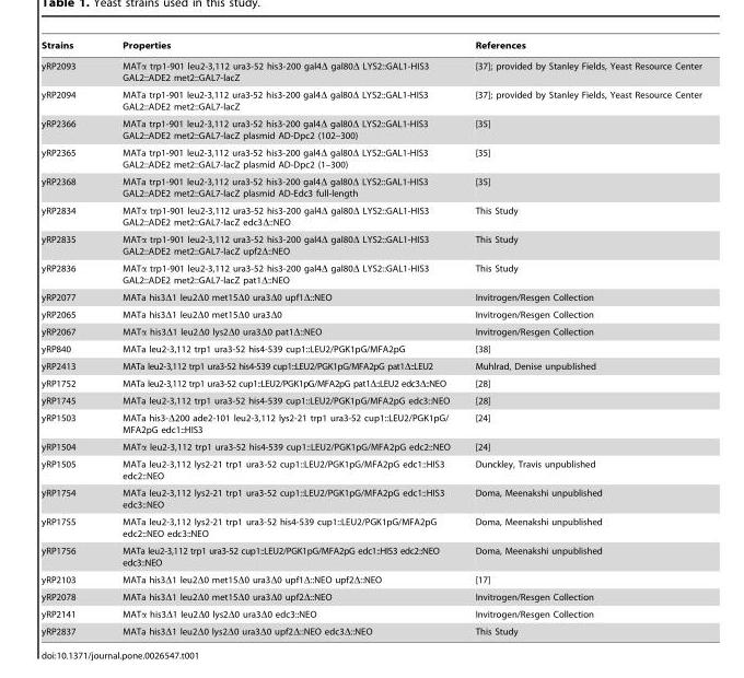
<table><thead><tr><td>Strains</td><td>Properties</td><td>References</td></tr></thead><tbody><tr><td>yRP2093</td><td>MATα trp1-901 leu2-3,112 ura3-52 his3-200 gal4Δ gal80Δ LYS2::GAL1-HIS3 GAL2::ADE2 met2::GAL7-lacZ</td><td>[37]; provided by Stanley Fields, Yeast Resource Center</td></tr><tr><td>yRP2094</td><td>MATa trp1-901 leu2-3,112 ura3-52 his3-200 gal4Δ gal80Δ LYS2::GAL1-HIS3 GAL2::ADE2 met2::GAL7-lacZ</td><td>[37]; provided by Stanley Fields, Yeast Resource Center</td></tr><tr><td>yRP2366</td><td>MATa trp1-901 leu2-3,112 ura3-52 his3-200 gal4Δ gal80Δ LYS2::GAL1-HIS3 GAL2::ADE2 met2::GAL7-lacZ plasmid AD-Dpc2 (102–300)</td><td>[35]</td></tr><tr><td>yRP2365</td><td>MATa trp1-901 leu2-3,112 ura3-52 his3-200 gal4Δ gal80Δ LYS2::GAL1-HIS3 GAL2::ADE2 met2::GAL7-lacZ plasmid AD-Dpc2 (1–300)</td><td>[35]</td></tr><tr><td>yRP2368</td><td>MATa trp1-901 leu2-3,112 ura3-52 his3-200 gal4Δ gal80Δ LYS2::GAL1-HIS3 GAL2::ADE2 met2::GAL7-lacZ plasmid AD-Edc3 full-length</td><td>[35]</td></tr><tr><td>yRP2834</td><td>MATα trp1-901 leu2-3,112 ura3-52 his3-200 gal4Δ gal80Δ LYS2::GAL1-HIS3 GAL2::ADE2 met2::GAL7-lacZ edc3Δ::NEO</td><td>This Study</td></tr><tr><td>yRP2835</td><td>MATα trp1-901 leu2-3,112 ura3-52 his3-200 gal4Δ gal80Δ LYS2::GAL1-HIS3 GAL2::ADE2 met2::GAL7-lacZ upf2Δ::NEO</td><td>This Study</td></tr><tr><td>yRP2836</td><td>MATα trp1-901 leu2-3,112 ura3-52 his3-200 gal4Δ gal80Δ LYS2::GAL1-HIS3 GAL2::ADE2 met2::GAL7-lacZ pat1Δ::NEO</td><td>This Study</td></tr><tr><td>yRP2077</td><td>MATa his3Δ1 leu2Δ0 met15Δ0 ura3Δ0 upf1Δ::NEO</td><td>Invitrogen/Resgen Collection</td></tr><tr><td>yRP2065</td><td>MATa his3Δ1 leu2Δ0 met15Δ0 ura3Δ0</td><td>Invitrogen/Resgen Collection</td></tr><tr><td>yRP2067</td><td>MATα his3Δ1 leu2Δ0 lys2Δ0 ura3Δ0 pat1Δ::NEO</td><td>Invitrogen/Resgen Collection</td></tr><tr><td>yRP840</td><td>MATa leu2-3,112 trp1 ura3-52 his4-539 cup1::LEU2/PGK1pG/MFA2pG</td><td>[38]</td></tr><tr><td>yRP2413</td><td>MATa leu2-3,112 trp1 ura3-52 his4-539 cup1::LEU2/PGK1pG/MFA2pG pat1Δ::LEU2</td><td>Muhlrad, Denise unpublished</td></tr><tr><td>yRP1752</td><td>MATa leu2-3,112 trp1 ura3-52 cup1::LEU2/PGK1pG/MFA2pG pat1Δ::LEU2 edc3Δ::NEO</td><td>[28]</td></tr><tr><td>yRP1745</td><td>MATa leu2-3,112 trp1 ura3-52 his4-539 cup1::LEU2/PGK1pG/MFA2pG edc3::NEO</td><td>[28]</td></tr><tr><td>yRP1503</td><td>MATa his3-Δ200 ade2-101 leu2-3,112 lys2-21 trp1 ura3-52 cup1::LEU2/PGK1pG/ MFA2pG edc1::HIS3</td><td>[24]</td></tr><tr><td>yRP1504</td><td>MATα leu2-3,112 trp1 ura3-52 his4-539 cup1::LEU2/PGK1pG/MFA2pG edc2::NEO</td><td>[24]</td></tr><tr><td>yRP1505</td><td>MATa leu2-3,112 lys2-21 trp1 ura3-52 cup1::LEU2/PGK1pG/MFA2pG edc1::HIS3 edc2::NEO</td><td>Dunckley, Travis unpublished</td></tr><tr><td>yRP1754</td><td>MATa leu2-3,112 lys2-21 trp1 ura3-52 cup1::LEU2/PGK1pG/MFA2pG edc1::HIS3 edc3::NEO</td><td>Doma, Meenakshi unpublished</td></tr><tr><td>yRP1755</td><td>MATa leu2-3,112 lys2-21 trp1 ura3-52 his4-539 cup1::LEU2/PGK1pG/MFA2pG edc2::NEO edc3::NEO</td><td>Doma, Meenakshi unpublished</td></tr><tr><td>yRP1756</td><td>MATa leu2-3,112 trp1 ura3-52 cup1::LEU2/PGK1pG/MFA2pG edc1::HIS3 edc2::NEO edc3::NEO</td><td>Doma, Meenakshi unpublished</td></tr><tr><td>yRP2103</td><td>MATa his3Δ1 leu2Δ0 met15Δ0 ura3Δ0 upf1Δ::NEO upf2Δ::NEO</td><td>[17]</td></tr><tr><td>yRP2078</td><td>MATa his3Δ1 leu2Δ0 met15Δ0 ura3Δ0 upf2Δ::NEO</td><td>Invitrogen/Resgen Collection</td></tr><tr><td>yRP2141</td><td>MATα his3Δ1 leu2Δ0 lys2Δ0 ura3Δ0 edc3::NEO</td><td>Invitrogen/Resgen Collection</td></tr><tr><td>yRP2837</td><td>MATa his3Δ1 leu2Δ0 lys2Δ0 ura3Δ0 upf2Δ::NEO edc3Δ::NEO</td><td>This Study</td></tr></tbody></table>